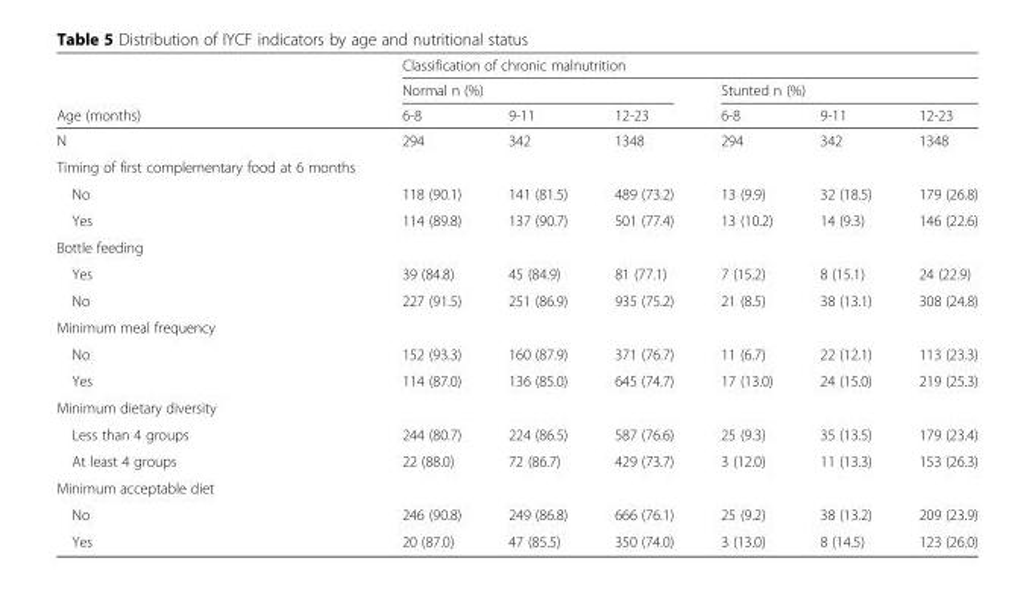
<table><thead><tr><td rowspan="3">Age (months)</td><td colspan="6">Classification of chronic malnutrition</td></tr><tr><td colspan="3">Normal n (%)</td><td colspan="3">Stunted n (%)</td></tr><tr><td>6-8</td><td>9-11</td><td>12-23</td><td>6-8</td><td>9-11</td><td>12-23</td></tr></thead><tbody><tr><td>N</td><td>294</td><td>342</td><td>1348</td><td>294</td><td>342</td><td>1348</td></tr><tr><td colspan="7">Timing of first complementary food at 6 months</td></tr><tr><td>No</td><td>118 (90.1)</td><td>141 (81.5)</td><td>489 (73.2)</td><td>13 (9.9)</td><td>32 (18.5)</td><td>179 (26.8)</td></tr><tr><td>Yes</td><td>114 (89.8)</td><td>137 (90.7)</td><td>501 (77.4)</td><td>13 (10.2)</td><td>14 (9.3)</td><td>146 (22.6)</td></tr><tr><td colspan="7">Bottle feeding</td></tr><tr><td>Yes</td><td>39 (84.8)</td><td>45 (84.9)</td><td>81 (77.1)</td><td>7 (15.2)</td><td>8 (15.1)</td><td>24 (22.9)</td></tr><tr><td>No</td><td>227 (91.5)</td><td>251 (86.9)</td><td>935 (75.2)</td><td>21 (8.5)</td><td>38 (13.1)</td><td>308 (24.8)</td></tr><tr><td colspan="7">Minimum meal frequency</td></tr><tr><td>No</td><td>152 (93.3)</td><td>160 (87.9)</td><td>371 (76.7)</td><td>11 (6.7)</td><td>22 (12.1)</td><td>113 (23.3)</td></tr><tr><td>Yes</td><td>114 (87.0)</td><td>136 (85.0)</td><td>645 (74.7)</td><td>17 (13.0)</td><td>24 (15.0)</td><td>219 (25.3)</td></tr><tr><td colspan="7">Minimum dietary diversity</td></tr><tr><td>Less than 4 groups</td><td>244 (80.7)</td><td>224 (86.5)</td><td>587 (76.6)</td><td>25 (9.3)</td><td>35 (13.5)</td><td>179 (23.4)</td></tr><tr><td>At least 4 groups</td><td>22 (88.0)</td><td>72 (86.7)</td><td>429 (73.7)</td><td>3 (12.0)</td><td>11 (13.3)</td><td>153 (26.3)</td></tr><tr><td colspan="7">Minimum acceptable diet</td></tr><tr><td>No</td><td>246 (90.8)</td><td>249 (86.8)</td><td>666 (76.1)</td><td>25 (9.2)</td><td>38 (13.2)</td><td>209 (23.9)</td></tr><tr><td>Yes</td><td>20 (87.0)</td><td>47 (85.5)</td><td>350 (74.0)</td><td>3 (13.0)</td><td>8 (14.5)</td><td>123 (26.0)</td></tr></tbody></table>